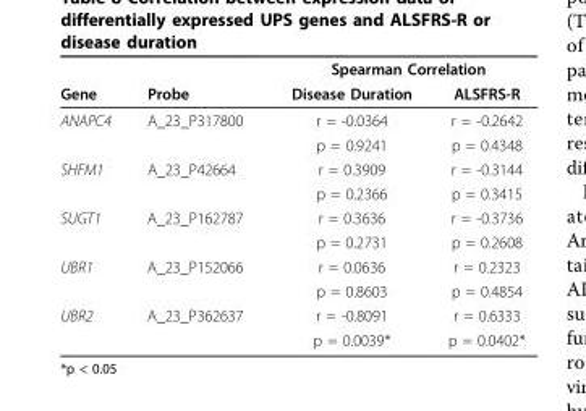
<table><thead><tr><td rowspan="2">Gene</td><td rowspan="2">Probe</td><td colspan="2">Spearman Correlation</td></tr><tr><td>Disease Duration</td><td>ALSFRS-R</td></tr></thead><tbody><tr><td rowspan="2">ANAPC4</td><td>A_23_P317800</td><td>r = -0.0364</td><td>r = -0.2642</td></tr><tr><td></td><td>p = 0.9241</td><td>p = 0.4348</td></tr><tr><td rowspan="2">SHFM1</td><td>A_23_P42664</td><td>r = 0.3909</td><td>r = -0.3144</td></tr><tr><td></td><td>p = 0.2366</td><td>p = 0.3415</td></tr><tr><td rowspan="2">SUGT1</td><td>A_23_P162787</td><td>r = 0.3636</td><td>r = -0.3736</td></tr><tr><td></td><td>p = 0.2731</td><td>p = 0.2608</td></tr><tr><td rowspan="2">UBR1</td><td>A_23_P152066</td><td>r = 0.0636</td><td>r = 0.2323</td></tr><tr><td></td><td>p = 0.8603</td><td>p = 0.4854</td></tr><tr><td rowspan="2">UBR2</td><td>A_23_P362637</td><td>r = -0.8091</td><td>r = 0.6333</td></tr><tr><td></td><td>p = 0.0039*</td><td>p = 0.0402*</td></tr></tbody></table>